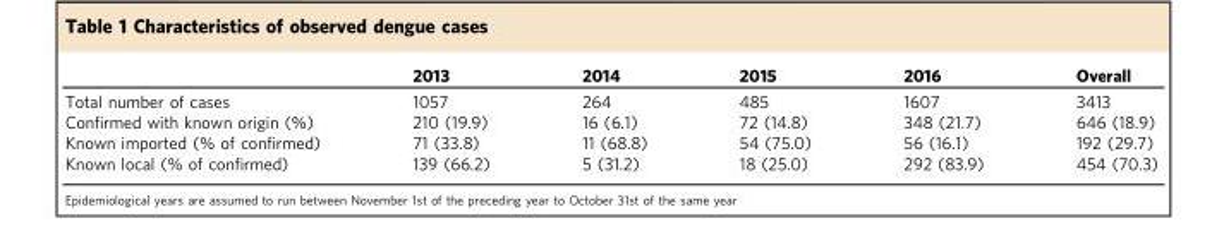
<table><thead><tr><td></td><td>2013</td><td>2014</td><td>2015</td><td>2016</td><td>Overall</td></tr></thead><tbody><tr><td>Total number of cases</td><td>1057</td><td>264</td><td>485</td><td>1607</td><td>3413</td></tr><tr><td>Confirmed with known origin (%)</td><td>210 (19.9)</td><td>16 (6.1)</td><td>72 (14.8)</td><td>348 (21.7)</td><td>646 (18.9)</td></tr><tr><td>Known imported (% of confirmed)</td><td>71 (33.8)</td><td>11 (68.8)</td><td>54 (75.0)</td><td>56 (16.1)</td><td>192 (29.7)</td></tr><tr><td>Known local (% of confirmed)</td><td>139 (66.2)</td><td>5 (31.2)</td><td>18 (25.0)</td><td>292 (83.9)</td><td>454 (70.3)</td></tr></tbody></table>